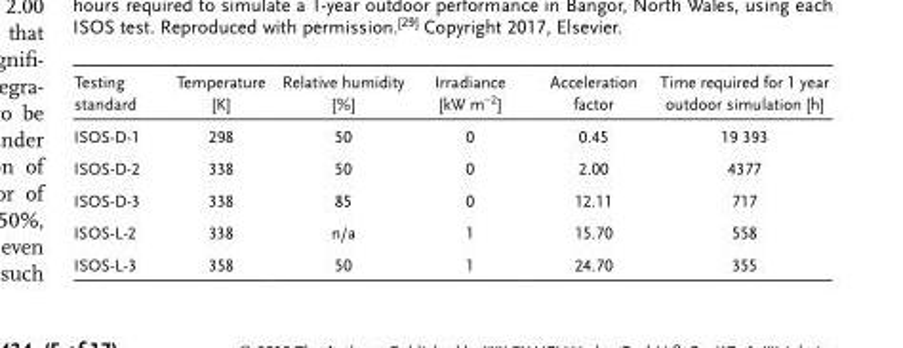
<table><thead><tr><td>Testing standard</td><td>Temperature [K]</td><td>Relative humidity [%]</td><td>Irradiance [kW m<sup>−2</sup>]</td><td>Acceleration factor</td><td>Time required for 1 year outdoor simulation [h]</td></tr></thead><tbody><tr><td>ISOS-D-1</td><td>298</td><td>50</td><td>0</td><td>0.45</td><td>19 393</td></tr><tr><td>ISOS-D-2</td><td>338</td><td>50</td><td>0</td><td>2.00</td><td>4377</td></tr><tr><td>ISOS-D-3</td><td>338</td><td>85</td><td>0</td><td>12.11</td><td>717</td></tr><tr><td>ISOS-L-2</td><td>338</td><td>n/a</td><td>1</td><td>15.70</td><td>558</td></tr><tr><td>ISOS-L-3</td><td>358</td><td>50</td><td>1</td><td>24.70</td><td>355</td></tr></tbody></table>